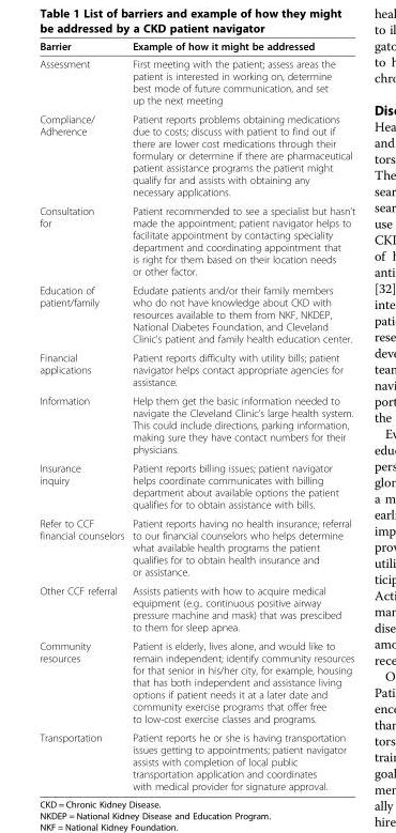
<table><thead><tr><td>Barrier</td><td>Example of how it might be addressed</td></tr></thead><tbody><tr><td>Assessment</td><td>First meeting with the patient; assess areas the patient is interested in working on, determine best mode of future communication, and set up the next meeting</td></tr><tr><td>Compliance/ Adherence</td><td>Patient reports problems obtaining medications due to costs; discuss with patient to find out if there are lower cost medications through their formulary or determine if there are pharmaceutical patient assistance programs the patient might qualify for and assists with obtaining any necessary applications.</td></tr><tr><td>Consultation for</td><td>Patient recommended to see a specialist but hasn’t made the appointment; patient navigator helps to facilitate appointment by contacting speciality department and coordinating appointment that is right for them based on their location needs or other factor.</td></tr><tr><td>Education of patient/family</td><td>Edudate patients and/or their family members who do not have knowledge about CKD with resources available to them from NKF, NKDEP, National Diabetes Foundation, and Cleveland Clinic’s patient and family health education center.</td></tr><tr><td>Financial applications</td><td>Patient reports difficulty with utility bills; patient navigator helps contact appropriate agencies for assistance.</td></tr><tr><td>Information</td><td>Help them get the basic information needed to navigate the Cleveland Clinic’s large health system. This could include directions, parking information, making sure they have contact numbers for their physicians.</td></tr><tr><td>Insurance inquiry</td><td>Patient reports billing issues; patient navigator helps coordinate communicates with billing department about available options the patient qualifies for to obtain assistance with bills.</td></tr><tr><td>Refer to CCF financial counselors</td><td>Patient reports having no health insurance; referral to our financial counselors who helps determine what available health programs the patient qualifies for to obtain health insurance and or assistance.</td></tr><tr><td>Other CCF referral</td><td>Assists patients with how to acquire medical equipment (e.g.. continuous positive airway pressure machine and mask) that was prescibed to them for sleep apnea.</td></tr><tr><td>Community resources</td><td>Patient is elderly, lives alone, and would like to remain independent; identify community resources for that senior in his/her city, for example, housing that has both independent and assistance living options if patient needs it at a later date and community exercise programs that offer free to low-cost exercise classes and programs.</td></tr><tr><td>Transportation</td><td>Patient reports he or she is having transportation issues getting to appointments; patient navigator assists with completion of local public transportation application and coordinates with medical provider for signature approval.</td></tr></tbody></table>